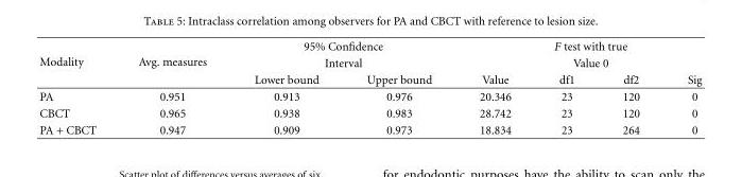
<table><thead><tr><td rowspan="3">Modality</td><td rowspan="3">Avg. measures</td><td rowspan="2" colspan="2">95% Confidence Interval</td><td rowspan="2" colspan="4">F test with true Value 0</td></tr><tr></tr><tr><td>Lower bound</td><td>Upper bound</td><td>Value</td><td>df1</td><td>df2</td><td>Sig</td></tr></thead><tbody><tr><td>PA</td><td>0.951</td><td>0.913</td><td>0.976</td><td>20.346</td><td>23</td><td>120</td><td>0</td></tr><tr><td>CBCT</td><td>0.965</td><td>0.938</td><td>0.983</td><td>28.742</td><td>23</td><td>120</td><td>0</td></tr><tr><td>PA + CBCT</td><td>0.947</td><td>0.909</td><td>0.973</td><td>18.834</td><td>23</td><td>264</td><td>0</td></tr></tbody></table>